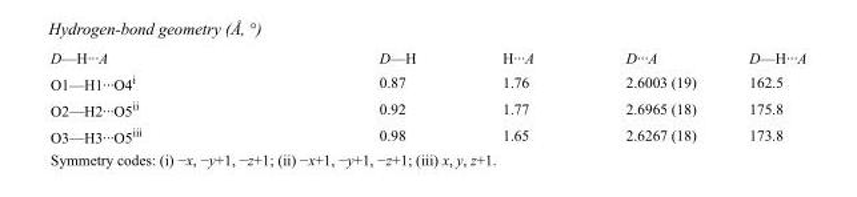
<table><tbody><tr><td>D—H···A</td><td>D—H</td><td>H···A</td><td>D···A</td><td>D—H···A</td></tr><tr><td>O1—H1···O4<sup>i</sup></td><td>0.87</td><td>1.76</td><td>2.6003 (19)</td><td>162.5</td></tr><tr><td>O2—H2···O5<sup>ii</sup></td><td>0.92</td><td>1.77</td><td>2.6965 (18)</td><td>175.8</td></tr><tr><td>O3—H3···O5<sup>iii</sup></td><td>0.98</td><td>1.65</td><td>2.6267 (18)</td><td>173.8</td></tr></tbody></table>